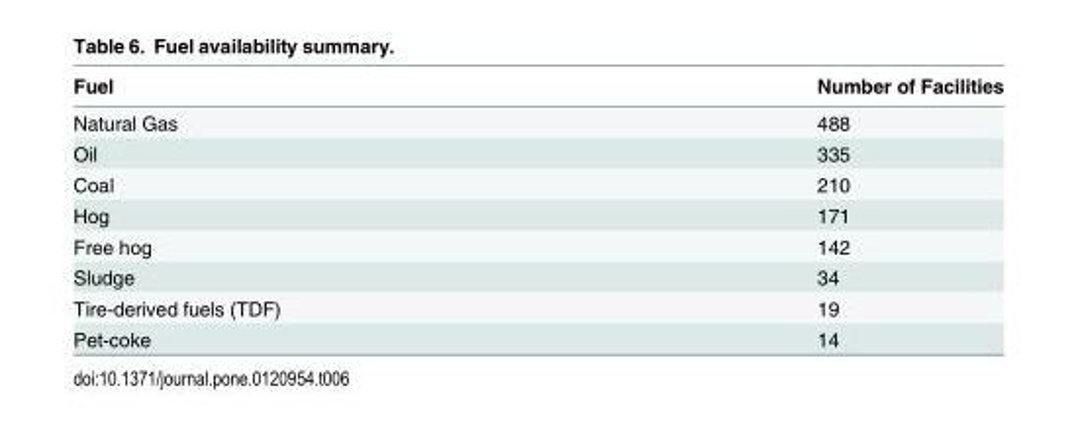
<table><thead><tr><td>Fuel</td><td>Number of Facilities</td></tr></thead><tbody><tr><td>Natural Gas</td><td>488</td></tr><tr><td>Oil</td><td>335</td></tr><tr><td>Coal</td><td>210</td></tr><tr><td>Hog</td><td>171</td></tr><tr><td>Free hog</td><td>142</td></tr><tr><td>Sludge</td><td>34</td></tr><tr><td>Tire-derived fuels (TDF)</td><td>19</td></tr><tr><td>Pet-coke</td><td>14</td></tr></tbody></table>